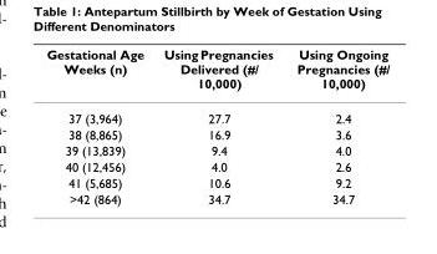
<table><thead><tr><td>Gestational Age Weeks (n)</td><td>Using Pregnancies Delivered (#/ 10,000)</td><td>Using Ongoing Pregnancies (#/ 10,000)</td></tr></thead><tbody><tr><td>37 (3,964)</td><td>27.7</td><td>2.4</td></tr><tr><td>38 (8,865)</td><td>16.9</td><td>3.6</td></tr><tr><td>39 (13,839)</td><td>9.4</td><td>4.0</td></tr><tr><td>40 (12,456)</td><td>4.0</td><td>2.6</td></tr><tr><td>41 (5,685)</td><td>10.6</td><td>9.2</td></tr><tr><td>&gt;42 (864)</td><td>34.7</td><td>34.7</td></tr></tbody></table>